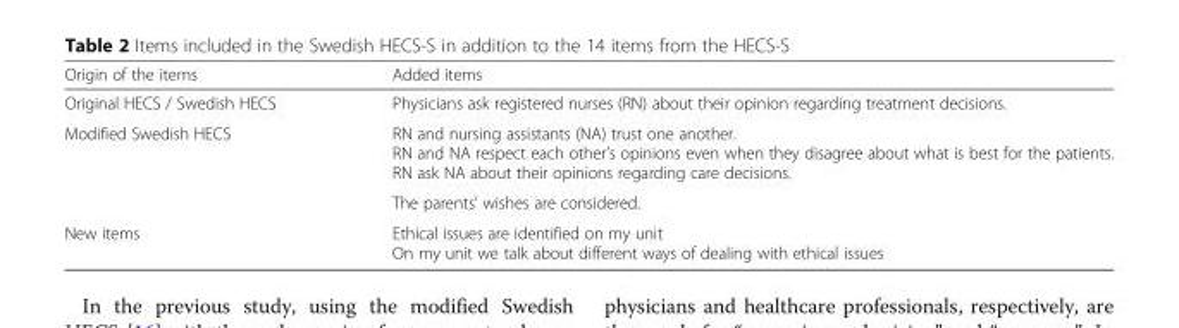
<table><thead><tr><td>Origin of the items</td><td>Added items</td></tr></thead><tbody><tr><td>Original HECS / Swedish HECS</td><td>Physicians ask registered nurses (RN) about their opinion regarding treatment decisions.</td></tr><tr><td rowspan="2">Modified Swedish HECS</td><td>RN and nursing assistants (NA) trust one another. RN and NA respect each other’s opinions even when they disagree about what is best for the patients. RN ask NA about their opinions regarding care decisions.</td></tr><tr><td>The parents’ wishes are considered.</td></tr><tr><td>New items</td><td>Ethical issues are identified on my unit On my unit we talk about different ways of dealing with ethical issues</td></tr></tbody></table>